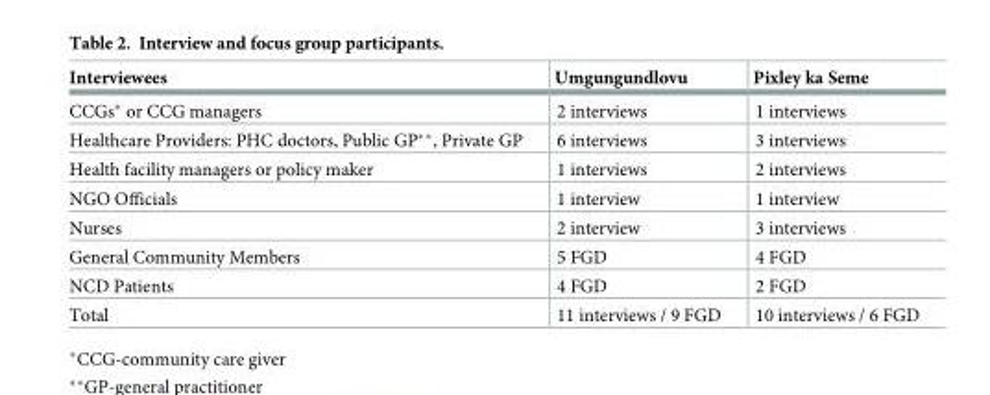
<table><thead><tr><td>Interviewees</td><td>Umgungundlovu</td><td>Pixley ka Seme</td></tr></thead><tbody><tr><td>CCGs* or CCG managers</td><td>2 interviews</td><td>1 interviews</td></tr><tr><td>Healthcare Providers: PHC doctors, Public GP**, Private GP</td><td>6 interviews</td><td>3 interviews</td></tr><tr><td>Health facility managers or policy maker</td><td>1 interviews</td><td>2 interviews</td></tr><tr><td>NGO Officials</td><td>1 interview</td><td>1 interview</td></tr><tr><td>Nurses</td><td>2 interview</td><td>3 interviews</td></tr><tr><td>General Community Members</td><td>5 FGD</td><td>4 FGD</td></tr><tr><td>NCD Patients</td><td>4 FGD</td><td>2 FGD</td></tr><tr><td>Total</td><td>11 interviews / 9 FGD</td><td>10 interviews / 6 FGD</td></tr></tbody></table>